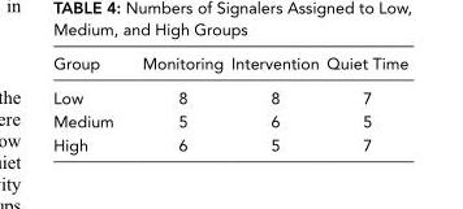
<table><thead><tr><td>Group</td><td>Monitoring</td><td>Intervention</td><td>Quiet Time</td></tr></thead><tbody><tr><td>Low</td><td>8</td><td>8</td><td>7</td></tr><tr><td>Medium</td><td>5</td><td>6</td><td>5</td></tr><tr><td>High</td><td>6</td><td>5</td><td>7</td></tr></tbody></table>